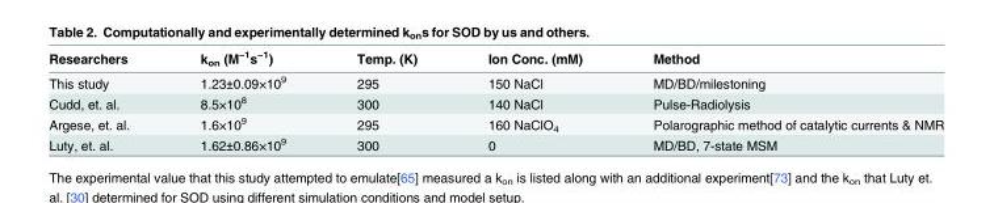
<table><thead><tr><td>Researchers</td><td>k<sub>on</sub> (M<sup>−1</sup>s<sup>−1</sup>)</td><td>Temp. (K)</td><td>Ion Conc. (mM)</td><td>Method</td></tr></thead><tbody><tr><td>This study</td><td>1.23±0.09×10<sup>9</sup></td><td>295</td><td>150 NaCl</td><td>MD/BD/milestoning</td></tr><tr><td>Cudd, et. al.</td><td>8.5×10<sup>8</sup></td><td>300</td><td>140 NaCl</td><td>Pulse-Radiolysis</td></tr><tr><td>Argese, et. al.</td><td>1.6×10<sup>9</sup></td><td>295</td><td>160 NaClO<sub>4</sub></td><td>Polarographic method of catalytic currents &amp; NMR</td></tr><tr><td>Luty, et. al.</td><td>1.62±0.86×10<sup>9</sup></td><td>300</td><td>0</td><td>MD/BD, 7-state MSM</td></tr></tbody></table>